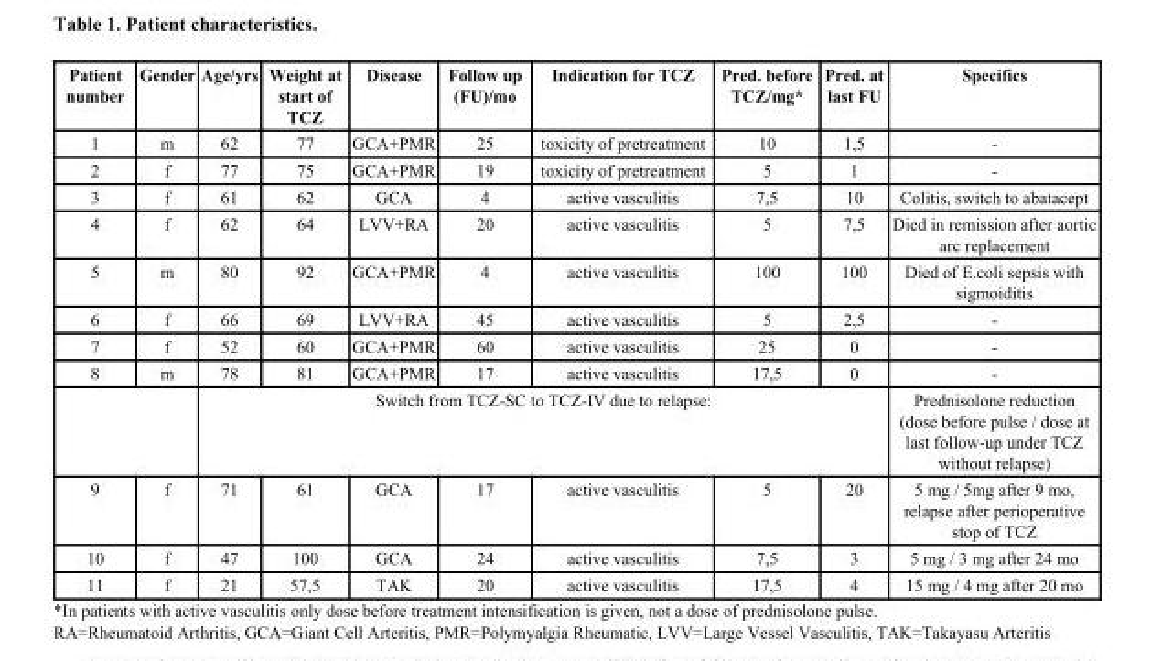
<table><thead><tr><td>Patient number</td><td>Gender</td><td>Age/yrs</td><td>Weight at start of TCZ</td><td>Disease</td><td>Follow up (FU)/mo</td><td>Indication for TCZ</td><td>Pred. before TCZ/mg*</td><td>Pred. at last FU</td><td>Specifics</td></tr></thead><tbody><tr><td>1</td><td>m</td><td>62</td><td>77</td><td>GCA+PMR</td><td>25</td><td>toxicity of pretreatment</td><td>10</td><td>1,5</td><td>-</td></tr><tr><td>2</td><td>f</td><td>77</td><td>75</td><td>GCA+PMR</td><td>19</td><td>toxicity of pretreatment</td><td>5</td><td>1</td><td>-</td></tr><tr><td>3</td><td>f</td><td>61</td><td>62</td><td>GCA</td><td>4</td><td>active vasculitis</td><td>7,5</td><td>10</td><td>Colitis, switch to abatacept</td></tr><tr><td>4</td><td>f</td><td>62</td><td>64</td><td>LVV+RA</td><td>20</td><td>active vasculitis</td><td>5</td><td>7,5</td><td>Died in remission after aortic arc replacement</td></tr><tr><td>5</td><td>m</td><td>80</td><td>92</td><td>GCA+PMR</td><td>4</td><td>active vasculitis</td><td>100</td><td>100</td><td>Died of E.coli sepsis with sigmoiditis</td></tr><tr><td>6</td><td>f</td><td>66</td><td>69</td><td>LVV+RA</td><td>45</td><td>active vasculitis</td><td>5</td><td>2,5</td><td>-</td></tr><tr><td>7</td><td>f</td><td>52</td><td>60</td><td>GCA+PMR</td><td>60</td><td>active vasculitis</td><td>25</td><td>0</td><td>-</td></tr><tr><td>8</td><td>m</td><td>78</td><td>81</td><td>GCA+PMR</td><td>17</td><td>active vasculitis</td><td>17,5</td><td>0</td><td>-</td></tr><tr><td colspan="2"></td><td colspan="7">Switch from TCZ-SC to TCZ-IV due to relapse:</td><td>Prednisolone reduction (dose before pulse / dose at last follow-up under TCZ without relapse)</td></tr><tr><td>9</td><td>f</td><td>71</td><td>61</td><td>GCA</td><td>17</td><td>active vasculitis</td><td>5</td><td>20</td><td>5 mg / 5mg after 9 mo, relapse after perioperative stop of TCZ</td></tr><tr><td>10</td><td>f</td><td>47</td><td>100</td><td>GCA</td><td>24</td><td>active vasculitis</td><td>7,5</td><td>3</td><td>5 mg / 3 mg after 24 mo</td></tr><tr><td>11</td><td>f</td><td>21</td><td>57,5</td><td>TAK</td><td>20</td><td>active vasculitis</td><td>17,5</td><td>4</td><td>15 mg / 4 mg after 20 mo</td></tr></tbody></table>